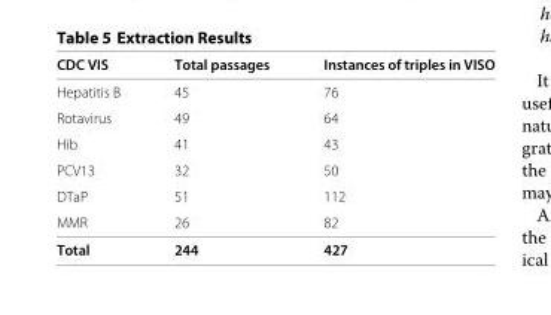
<table><thead><tr><td>CDC VIS</td><td>Total passages</td><td>Instances of triples in VISO</td></tr></thead><tbody><tr><td>Hepatitis B</td><td>45</td><td>76</td></tr><tr><td>Rotavirus</td><td>49</td><td>64</td></tr><tr><td>Hib</td><td>41</td><td>43</td></tr><tr><td>PCV13</td><td>32</td><td>50</td></tr><tr><td>DTaP</td><td>51</td><td>112</td></tr><tr><td>MMR</td><td>26</td><td>82</td></tr><tr><td>Total</td><td>244</td><td>427</td></tr></tbody></table>